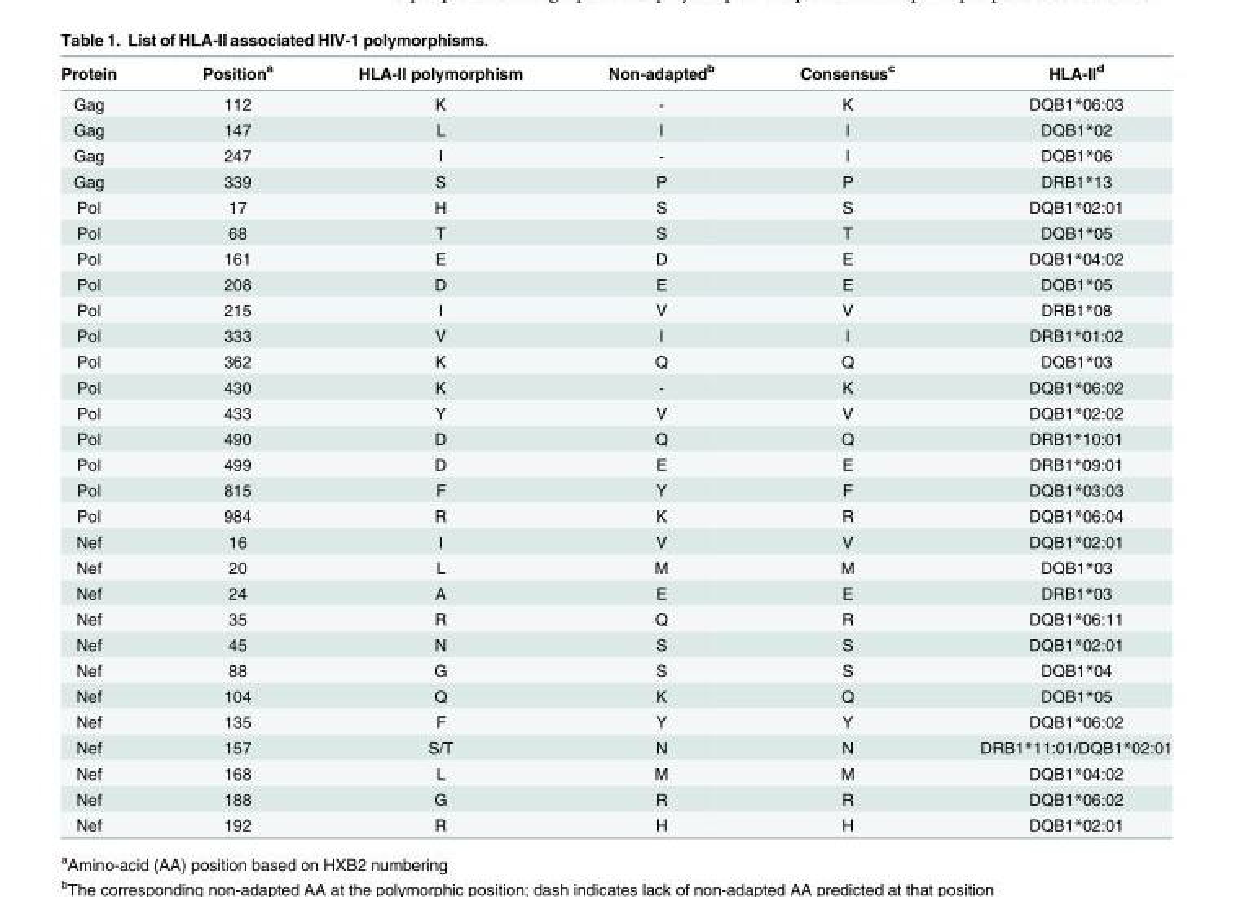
<table><thead><tr><td>Protein</td><td>Position<sup>a</sup></td><td>HLA-II polymorphism</td><td>Non-adapted<sup>b</sup></td><td>Consensus<sup>c</sup></td><td>HLA-II<sup>d</sup></td></tr></thead><tbody><tr><td>Gag</td><td>112</td><td>K</td><td>-</td><td>K</td><td>DQB1*06:03</td></tr><tr><td>Gag</td><td>147</td><td>L</td><td>I</td><td>I</td><td>DQB1*02</td></tr><tr><td>Gag</td><td>247</td><td>I</td><td>-</td><td>I</td><td>DQB1*06</td></tr><tr><td>Gag</td><td>339</td><td>S</td><td>P</td><td>P</td><td>DRB1*13</td></tr><tr><td>Pol</td><td>17</td><td>H</td><td>S</td><td>S</td><td>DQB1*02:01</td></tr><tr><td>Pol</td><td>68</td><td>T</td><td>S</td><td>T</td><td>DQB1*05</td></tr><tr><td>Pol</td><td>161</td><td>E</td><td>D</td><td>E</td><td>DQB1*04:02</td></tr><tr><td>Pol</td><td>208</td><td>D</td><td>E</td><td>E</td><td>DQB1*05</td></tr><tr><td>Pol</td><td>215</td><td>I</td><td>V</td><td>V</td><td>DRB1*08</td></tr><tr><td>Pol</td><td>333</td><td>V</td><td>I</td><td>I</td><td>DRB1*01:02</td></tr><tr><td>Pol</td><td>362</td><td>K</td><td>Q</td><td>Q</td><td>DQB1*03</td></tr><tr><td>Pol</td><td>430</td><td>K</td><td>-</td><td>K</td><td>DQB1*06:02</td></tr><tr><td>Pol</td><td>433</td><td>Y</td><td>V</td><td>V</td><td>DQB1*02:02</td></tr><tr><td>Pol</td><td>490</td><td>D</td><td>Q</td><td>Q</td><td>DRB1*10:01</td></tr><tr><td>Pol</td><td>499</td><td>D</td><td>E</td><td>E</td><td>DRB1*09:01</td></tr><tr><td>Pol</td><td>815</td><td>F</td><td>Y</td><td>F</td><td>DQB1*03:03</td></tr><tr><td>Pol</td><td>984</td><td>R</td><td>K</td><td>R</td><td>DQB1*06:04</td></tr><tr><td>Nef</td><td>16</td><td>I</td><td>V</td><td>V</td><td>DQB1*02:01</td></tr><tr><td>Nef</td><td>20</td><td>L</td><td>M</td><td>M</td><td>DQB1*03</td></tr><tr><td>Nef</td><td>24</td><td>A</td><td>E</td><td>E</td><td>DRB1*03</td></tr><tr><td>Nef</td><td>35</td><td>R</td><td>Q</td><td>R</td><td>DQB1*06:11</td></tr><tr><td>Nef</td><td>45</td><td>N</td><td>S</td><td>S</td><td>DQB1*02:01</td></tr><tr><td>Nef</td><td>88</td><td>G</td><td>S</td><td>S</td><td>DQB1*04</td></tr><tr><td>Nef</td><td>104</td><td>Q</td><td>K</td><td>Q</td><td>DQB1*05</td></tr><tr><td>Nef</td><td>135</td><td>F</td><td>Y</td><td>Y</td><td>DQB1*06:02</td></tr><tr><td>Nef</td><td>157</td><td>S/T</td><td>N</td><td>N</td><td>DRB1*11:01/DQB1*02:01</td></tr><tr><td>Nef</td><td>168</td><td>L</td><td>M</td><td>M</td><td>DQB1*04:02</td></tr><tr><td>Nef</td><td>188</td><td>G</td><td>R</td><td>R</td><td>DQB1*06:02</td></tr><tr><td>Nef</td><td>192</td><td>R</td><td>H</td><td>H</td><td>DQB1*02:01</td></tr></tbody></table>